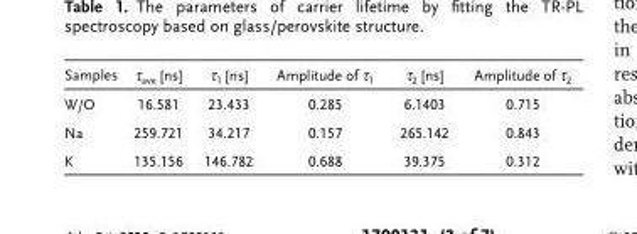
<table><thead><tr><td>Samples</td><td>τ<sub>ave</sub> [ns]</td><td>τ<sub>1</sub> [ns]</td><td>Amplitude of τ<sub>1</sub></td><td>τ<sub>2</sub> [ns]</td><td>Amplitude of τ<sub>2</sub></td></tr></thead><tbody><tr><td>W/O</td><td>16.581</td><td>23.433</td><td>0.285</td><td>6.1403</td><td>0.715</td></tr><tr><td>Na</td><td>259.721</td><td>34.217</td><td>0.157</td><td>265.142</td><td>0.843</td></tr><tr><td>K</td><td>135.156</td><td>146.782</td><td>0.688</td><td>39.375</td><td>0.312</td></tr></tbody></table>